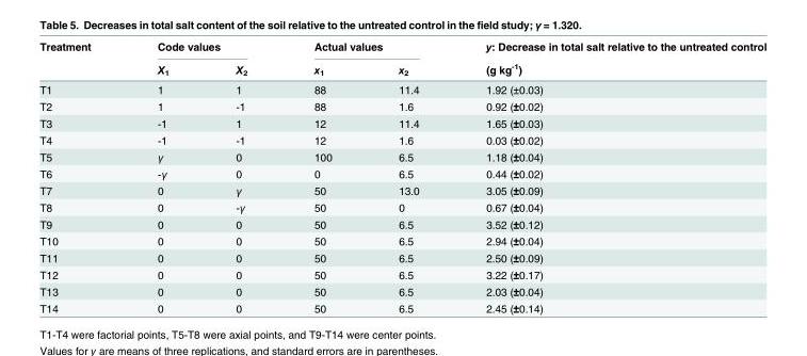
<table><thead><tr><td rowspan="2">Treatment</td><td colspan="2">Code values</td><td colspan="2">Actual values</td><td rowspan="2">y: Decrease in total salt relative to the untreated control (g kg<sup>-1</sup>)</td></tr><tr><td>X1</td><td>X<sub>2</sub></td><td>x<sub>1</sub></td><td>x2</td></tr></thead><tbody><tr><td>T1</td><td>1</td><td>1</td><td>88</td><td>11.4</td><td>1.92 (±0.03)</td></tr><tr><td>T2</td><td>1</td><td>-1</td><td>88</td><td>1.6</td><td>0.92 (±0.02)</td></tr><tr><td>T3</td><td>-1</td><td>1</td><td>12</td><td>11.4</td><td>1.65 (±0.03)</td></tr><tr><td>T4</td><td>-1</td><td>-1</td><td>12</td><td>1.6</td><td>0.03 (±0.02)</td></tr><tr><td>T5</td><td>γ</td><td>0</td><td>100</td><td>6.5</td><td>1.18 (±0.04)</td></tr><tr><td>T6</td><td>-γ</td><td>0</td><td>0</td><td>6.5</td><td>0.44 (±0.02)</td></tr><tr><td>T7</td><td>0</td><td>γ</td><td>50</td><td>13.0</td><td>3.05 (±0.09)</td></tr><tr><td>T8</td><td>0</td><td>-γ</td><td>50</td><td>0</td><td>0.67 (±0.04)</td></tr><tr><td>T9</td><td>0</td><td>0</td><td>50</td><td>6.5</td><td>3.52 (±0.12)</td></tr><tr><td>T10</td><td>0</td><td>0</td><td>50</td><td>6.5</td><td>2.94 (±0.04)</td></tr><tr><td>T11</td><td>0</td><td>0</td><td>50</td><td>6.5</td><td>2.50 (±0.09)</td></tr><tr><td>T12</td><td>0</td><td>0</td><td>50</td><td>6.5</td><td>3.22 (±0.17)</td></tr><tr><td>T13</td><td>0</td><td>0</td><td>50</td><td>6.5</td><td>2.03 (±0.04)</td></tr><tr><td>T14</td><td>0</td><td>0</td><td>50</td><td>6.5</td><td>2.45 (±0.14)</td></tr></tbody></table>